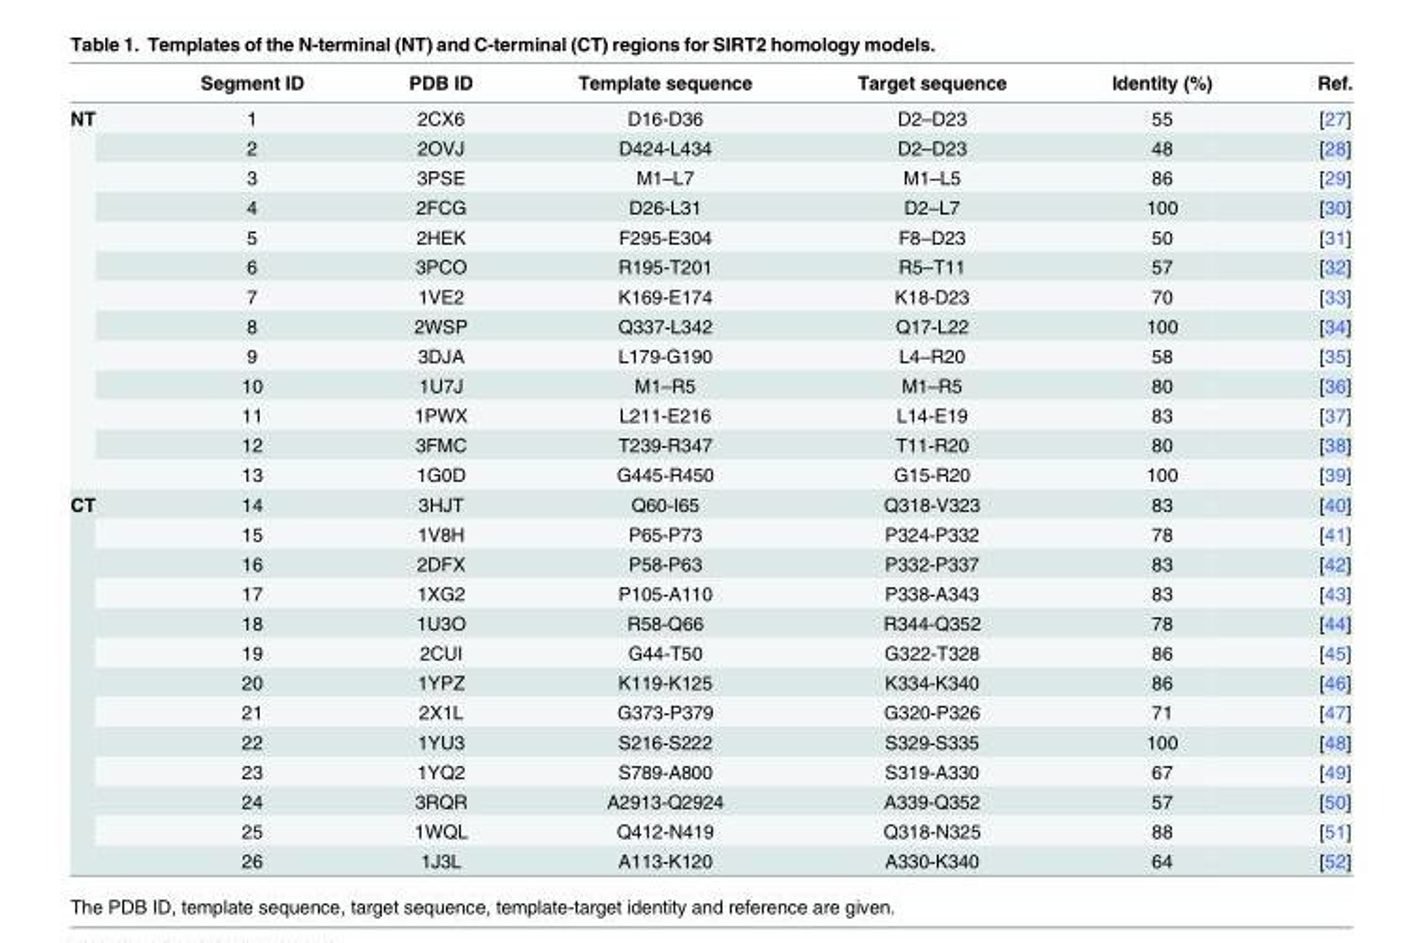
<table><thead><tr><td></td><td>Segment ID</td><td>PDB ID</td><td>Template sequence</td><td>Target sequence</td><td>Identity (%)</td><td>Ref.</td></tr></thead><tbody><tr><td rowspan="13">NT</td><td>1</td><td>2CX6</td><td>D16-D36</td><td>D2–D23</td><td>55</td><td>[27]</td></tr><tr><td>2</td><td>2OVJ</td><td>D424-L434</td><td>D2–D23</td><td>48</td><td>[28]</td></tr><tr><td>3</td><td>3PSE</td><td>M1–L7</td><td>M1–L5</td><td>86</td><td>[29]</td></tr><tr><td>4</td><td>2FCG</td><td>D26-L31</td><td>D2–L7</td><td>100</td><td>[30]</td></tr><tr><td>5</td><td>2HEK</td><td>F295-E304</td><td>F8–D23</td><td>50</td><td>[31]</td></tr><tr><td>6</td><td>3PCO</td><td>R195-T201</td><td>R5–T11</td><td>57</td><td>[32]</td></tr><tr><td>7</td><td>1VE2</td><td>K169-E174</td><td>K18-D23</td><td>70</td><td>[33]</td></tr><tr><td>8</td><td>2WSP</td><td>Q337-L342</td><td>Q17-L22</td><td>100</td><td>[34]</td></tr><tr><td>9</td><td>3DJA</td><td>L179-G190</td><td>L4–R20</td><td>58</td><td>[35]</td></tr><tr><td>10</td><td>1U7J</td><td>M1–R5</td><td>M1–R5</td><td>80</td><td>[36]</td></tr><tr><td>11</td><td>1PWX</td><td>L211-E216</td><td>L14-E19</td><td>83</td><td>[37]</td></tr><tr><td>12</td><td>3FMC</td><td>T239-R347</td><td>T11-R20</td><td>80</td><td>[38]</td></tr><tr><td>13</td><td>1G0D</td><td>G445-R450</td><td>G15-R20</td><td>100</td><td>[39]</td></tr><tr><td rowspan="13">CT</td><td>14</td><td>3HJT</td><td>Q60-I65</td><td>Q318-V323</td><td>83</td><td>[40]</td></tr><tr><td>15</td><td>1V8H</td><td>P65-P73</td><td>P324-P332</td><td>78</td><td>[41]</td></tr><tr><td>16</td><td>2DFX</td><td>P58-P63</td><td>P332-P337</td><td>83</td><td>[42]</td></tr><tr><td>17</td><td>1XG2</td><td>P105-A110</td><td>P338-A343</td><td>83</td><td>[43]</td></tr><tr><td>18</td><td>1U3O</td><td>R58-Q66</td><td>R344-Q352</td><td>78</td><td>[44]</td></tr><tr><td>19</td><td>2CUI</td><td>G44-T50</td><td>G322-T328</td><td>86</td><td>[45]</td></tr><tr><td>20</td><td>1YPZ</td><td>K119-K125</td><td>K334-K340</td><td>86</td><td>[46]</td></tr><tr><td>21</td><td>2X1L</td><td>G373-P379</td><td>G320-P326</td><td>71</td><td>[47]</td></tr><tr><td>22</td><td>1YU3</td><td>S216-S222</td><td>S329-S335</td><td>100</td><td>[48]</td></tr><tr><td>23</td><td>1YQ2</td><td>S789-A800</td><td>S319-A330</td><td>67</td><td>[49]</td></tr><tr><td>24</td><td>3RQR</td><td>A2913-Q2924</td><td>A339-Q352</td><td>57</td><td>[50]</td></tr><tr><td>25</td><td>1WQL</td><td>Q412-N419</td><td>Q318-N325</td><td>88</td><td>[51]</td></tr><tr><td>26</td><td>1J3L</td><td>A113-K120</td><td>A330-K340</td><td>64</td><td>[52]</td></tr></tbody></table>